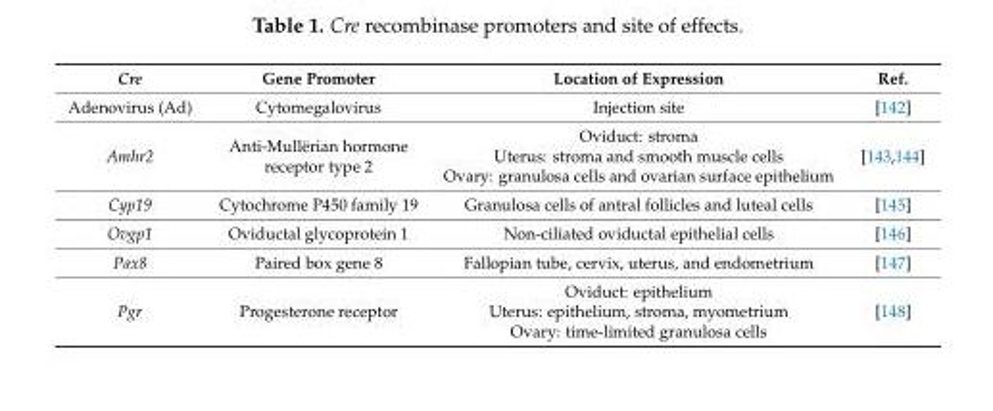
<table><thead><tr><td>Cre</td><td>Gene Promoter</td><td>Location of Expression</td><td>Ref.</td></tr></thead><tbody><tr><td>Adenovirus (Ad)</td><td>Cytomegalovirus</td><td>Injection site</td><td>[142]</td></tr><tr><td>Amhr2</td><td>Anti-Mullërian hormone receptor type 2</td><td>Oviduct: stroma Uterus: stroma and smooth muscle cells Ovary: granulosa cells and ovarian surface epithelium</td><td>[143,144]</td></tr><tr><td>Cyp19</td><td>Cytochrome P450 family 19</td><td>Granulosa cells of antral follicles and luteal cells</td><td>[145]</td></tr><tr><td>Ovgp1</td><td>Oviductal glycoprotein 1</td><td>Non-ciliated oviductal epithelial cells</td><td>[146]</td></tr><tr><td>Pax8</td><td>Paired box gene 8</td><td>Fallopian tube, cervix, uterus, and endometrium</td><td>[147]</td></tr><tr><td>Pgr</td><td>Progesterone receptor</td><td>Oviduct: epithelium Uterus: epithelium, stroma, myometrium Ovary: time-limited granulosa cells</td><td>[148]</td></tr></tbody></table>